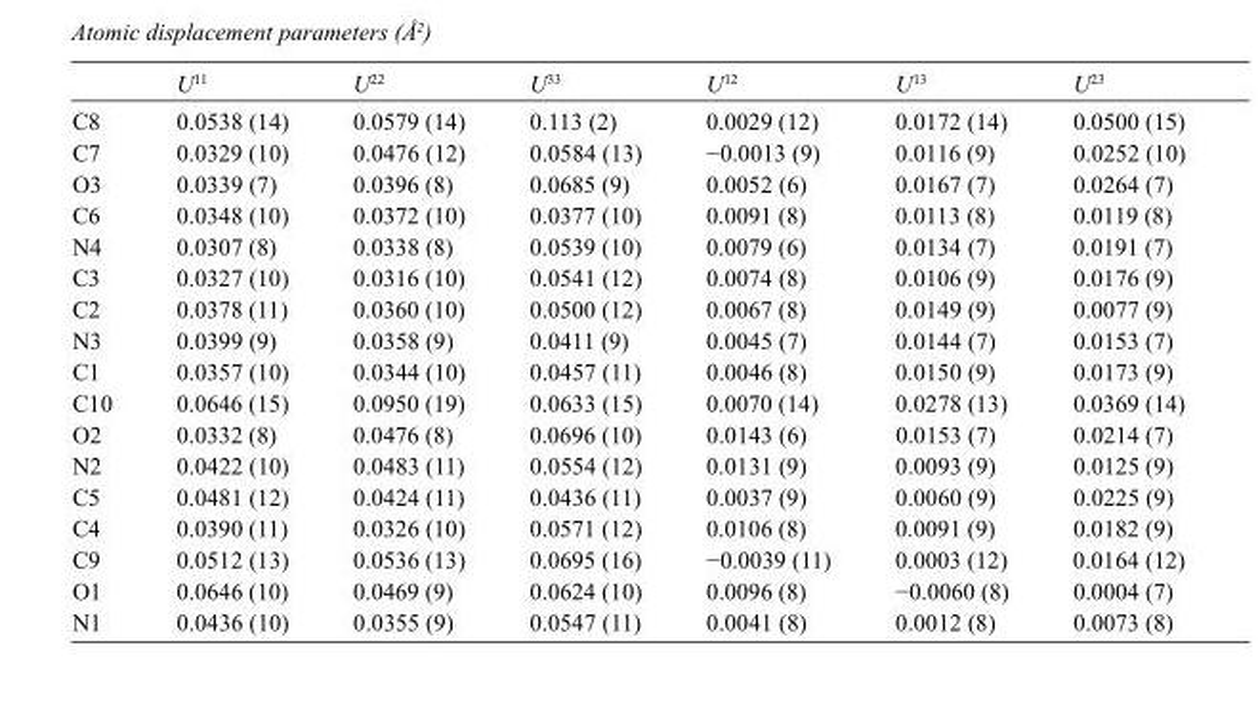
<table><thead><tr><td></td><td>U<sup>11</sup></td><td>U<sup>22</sup></td><td>U<sup>33</sup></td><td>U<sup>12</sup></td><td>U<sup>13</sup></td><td>U<sup>23</sup></td></tr></thead><tbody><tr><td>C8</td><td>0.0538 (14)</td><td>0.0579 (14)</td><td>0.113 (2)</td><td>0.0029 (12)</td><td>0.0172 (14)</td><td>0.0500 (15)</td></tr><tr><td>C7</td><td>0.0329 (10)</td><td>0.0476 (12)</td><td>0.0584 (13)</td><td>−0.0013 (9)</td><td>0.0116 (9)</td><td>0.0252 (10)</td></tr><tr><td>O3</td><td>0.0339 (7)</td><td>0.0396 (8)</td><td>0.0685 (9)</td><td>0.0052 (6)</td><td>0.0167 (7)</td><td>0.0264 (7)</td></tr><tr><td>C6</td><td>0.0348 (10)</td><td>0.0372 (10)</td><td>0.0377 (10)</td><td>0.0091 (8)</td><td>0.0113 (8)</td><td>0.0119 (8)</td></tr><tr><td>N4</td><td>0.0307 (8)</td><td>0.0338 (8)</td><td>0.0539 (10)</td><td>0.0079 (6)</td><td>0.0134 (7)</td><td>0.0191 (7)</td></tr><tr><td>C3</td><td>0.0327 (10)</td><td>0.0316 (10)</td><td>0.0541 (12)</td><td>0.0074 (8)</td><td>0.0106 (9)</td><td>0.0176 (9)</td></tr><tr><td>C2</td><td>0.0378 (11)</td><td>0.0360 (10)</td><td>0.0500 (12)</td><td>0.0067 (8)</td><td>0.0149 (9)</td><td>0.0077 (9)</td></tr><tr><td>N3</td><td>0.0399 (9)</td><td>0.0358 (9)</td><td>0.0411 (9)</td><td>0.0045 (7)</td><td>0.0144 (7)</td><td>0.0153 (7)</td></tr><tr><td>C1</td><td>0.0357 (10)</td><td>0.0344 (10)</td><td>0.0457 (11)</td><td>0.0046 (8)</td><td>0.0150 (9)</td><td>0.0173 (9)</td></tr><tr><td>C10</td><td>0.0646 (15)</td><td>0.0950 (19)</td><td>0.0633 (15)</td><td>0.0070 (14)</td><td>0.0278 (13)</td><td>0.0369 (14)</td></tr><tr><td>O2</td><td>0.0332 (8)</td><td>0.0476 (8)</td><td>0.0696 (10)</td><td>0.0143 (6)</td><td>0.0153 (7)</td><td>0.0214 (7)</td></tr><tr><td>N2</td><td>0.0422 (10)</td><td>0.0483 (11)</td><td>0.0554 (12)</td><td>0.0131 (9)</td><td>0.0093 (9)</td><td>0.0125 (9)</td></tr><tr><td>C5</td><td>0.0481 (12)</td><td>0.0424 (11)</td><td>0.0436 (11)</td><td>0.0037 (9)</td><td>0.0060 (9)</td><td>0.0225 (9)</td></tr><tr><td>C4</td><td>0.0390 (11)</td><td>0.0326 (10)</td><td>0.0571 (12)</td><td>0.0106 (8)</td><td>0.0091 (9)</td><td>0.0182 (9)</td></tr><tr><td>C9</td><td>0.0512 (13)</td><td>0.0536 (13)</td><td>0.0695 (16)</td><td>−0.0039 (11)</td><td>0.0003 (12)</td><td>0.0164 (12)</td></tr><tr><td>O1</td><td>0.0646 (10)</td><td>0.0469 (9)</td><td>0.0624 (10)</td><td>0.0096 (8)</td><td>−0.0060 (8)</td><td>0.0004 (7)</td></tr><tr><td>N1</td><td>0.0436 (10)</td><td>0.0355 (9)</td><td>0.0547 (11)</td><td>0.0041 (8)</td><td>0.0012 (8)</td><td>0.0073 (8)</td></tr></tbody></table>